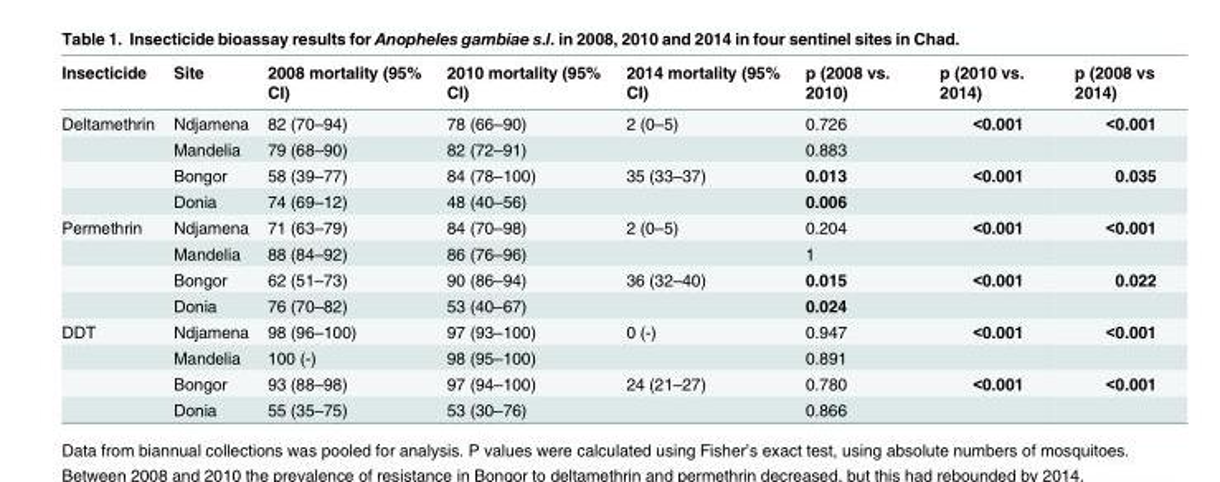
<table><thead><tr><td>Insecticide</td><td>Site</td><td>2008 mortality (95% CI)</td><td>2010 mortality (95% CI)</td><td>2014 mortality (95% CI)</td><td>p (2008 vs. 2010)</td><td>p (2010 vs. 2014)</td><td>p (2008 vs 2014)</td></tr></thead><tbody><tr><td rowspan="4">Deltamethrin</td><td>Ndjamena</td><td>82 (70–94)</td><td>78 (66–90)</td><td>2 (0–5)</td><td>0.726</td><td>&lt;0.001</td><td>&lt;0.001</td></tr><tr><td>Mandelia</td><td>79 (68–90)</td><td>82 (72–91)</td><td></td><td>0.883</td><td></td><td></td></tr><tr><td>Bongor</td><td>58 (39–77)</td><td>84 (78–100)</td><td>35 (33–37)</td><td>0.013</td><td>&lt;0.001</td><td>0.035</td></tr><tr><td>Donia</td><td>74 (69–12)</td><td>48 (40–56)</td><td></td><td>0.006</td><td></td><td></td></tr><tr><td rowspan="4">Permethrin</td><td>Ndjamena</td><td>71 (63–79)</td><td>84 (70–98)</td><td>2 (0–5)</td><td>0.204</td><td>&lt;0.001</td><td>&lt;0.001</td></tr><tr><td>Mandelia</td><td>88 (84–92)</td><td>86 (76–96)</td><td></td><td>1</td><td></td><td></td></tr><tr><td>Bongor</td><td>62 (51–73)</td><td>90 (86–94)</td><td>36 (32–40)</td><td>0.015</td><td>&lt;0.001</td><td>0.022</td></tr><tr><td>Donia</td><td>76 (70–82)</td><td>53 (40–67)</td><td></td><td>0.024</td><td></td><td></td></tr><tr><td rowspan="4">DDT</td><td>Ndjamena</td><td>98 (96–100)</td><td>97 (93–100)</td><td>0 (-)</td><td>0.947</td><td>&lt;0.001</td><td>&lt;0.001</td></tr><tr><td>Mandelia</td><td>100 (-)</td><td>98 (95–100)</td><td></td><td>0.891</td><td></td><td></td></tr><tr><td>Bongor</td><td>93 (88–98)</td><td>97 (94–100)</td><td>24 (21–27)</td><td>0.780</td><td>&lt;0.001</td><td>&lt;0.001</td></tr><tr><td>Donia</td><td>55 (35–75)</td><td>53 (30–76)</td><td></td><td>0.866</td><td></td><td></td></tr></tbody></table>